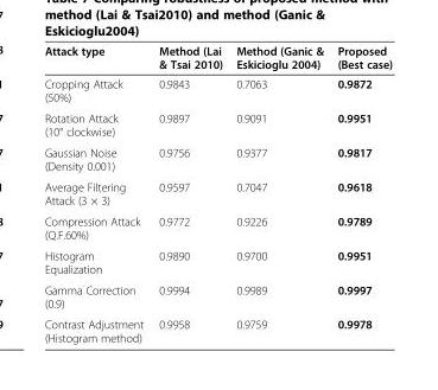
<table><thead><tr><td>Attack type</td><td>Method (Lai &amp; Tsai 2010)</td><td>Method (Ganic &amp; Eskicioglu 2004)</td><td>Proposed (Best case)</td></tr></thead><tbody><tr><td>Cropping Attack (50%)</td><td>0.9843</td><td>0.7063</td><td>0.9872</td></tr><tr><td>Rotation Attack (10° clockwise)</td><td>0.9897</td><td>0.9091</td><td>0.9951</td></tr><tr><td>Gaussian Noise (Density 0.001)</td><td>0.9756</td><td>0.9377</td><td>0.9817</td></tr><tr><td>Average Filtering Attack (3 × 3)</td><td>0.9597</td><td>0.7047</td><td>0.9618</td></tr><tr><td>Compression Attack (Q.F.60%)</td><td>0.9772</td><td>0.9226</td><td>0.9789</td></tr><tr><td>Histogram Equalization</td><td>0.9890</td><td>0.9700</td><td>0.9951</td></tr><tr><td>Gamma Correction (0.9)</td><td>0.9994</td><td>0.9989</td><td>0.9997</td></tr><tr><td>Contrast Adjustment (Histogram method)</td><td>0.9958</td><td>0.9759</td><td>0.9978</td></tr></tbody></table>